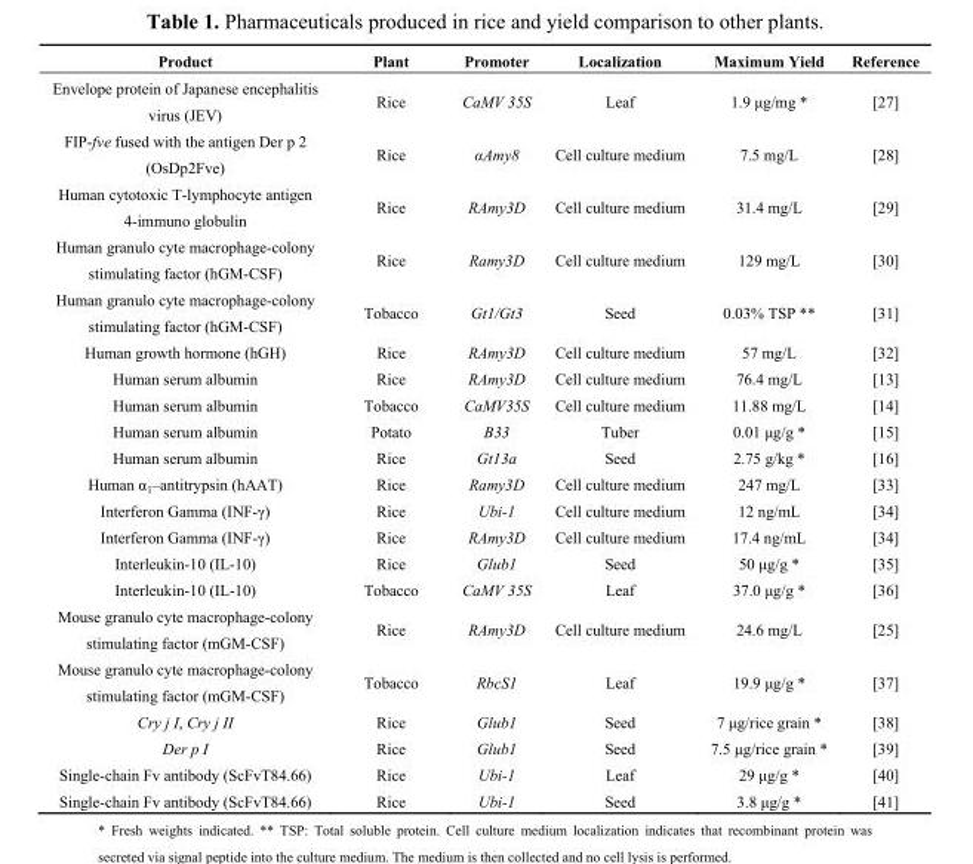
<table><thead><tr><td>Product</td><td>Plant</td><td>Promoter</td><td>Localization</td><td>Maximum Yield</td><td>Reference</td></tr></thead><tbody><tr><td>Envelope protein of Japanese encephalitis virus (JEV)</td><td>Rice</td><td>CaMV 35S</td><td>Leaf</td><td>1.9 μg/mg *</td><td>[27]</td></tr><tr><td>FIP-fve fused with the antigen Der p 2 (OsDp2Fve)</td><td>Rice</td><td>αAmy8</td><td>Cell culture medium</td><td>7.5 mg/L</td><td>[28]</td></tr><tr><td>Human cytotoxic T-lymphocyte antigen 4-immuno globulin</td><td>Rice</td><td>RAmy3D</td><td>Cell culture medium</td><td>31.4 mg/L</td><td>[29]</td></tr><tr><td>Human granulo cyte macrophage-colony stimulating factor (hGM-CSF)</td><td>Rice</td><td>Ramy3D</td><td>Cell culture medium</td><td>129 mg/L</td><td>[30]</td></tr><tr><td>Human granulo cyte macrophage-colony stimulating factor (hGM-CSF)</td><td>Tobacco</td><td>Gt1/Gt3</td><td>Seed</td><td>0.03% TSP **</td><td>[31]</td></tr><tr><td>Human growth hormone (hGH)</td><td>Rice</td><td>RAmy3D</td><td>Cell culture medium</td><td>57 mg/L</td><td>[32]</td></tr><tr><td>Human serum albumin</td><td>Rice</td><td>RAmy3D</td><td>Cell culture medium</td><td>76.4 mg/L</td><td>[13]</td></tr><tr><td>Human serum albumin</td><td>Tobacco</td><td>CaMV35S</td><td>Cell culture medium</td><td>11.88 mg/L</td><td>[14]</td></tr><tr><td>Human serum albumin</td><td>Potato</td><td>B33</td><td>Tuber</td><td>0.01 μg/g *</td><td>[15]</td></tr><tr><td>Human serum albumin</td><td>Rice</td><td>Gt13a</td><td>Seed</td><td>2.75 g/kg *</td><td>[16]</td></tr><tr><td>Human α<sub>1</sub>–antitrypsin (hAAT)</td><td>Rice</td><td>Ramy3D</td><td>Cell culture medium</td><td>247 mg/L</td><td>[33]</td></tr><tr><td>Interferon Gamma (INF-γ)</td><td>Rice</td><td>Ubi-1</td><td>Cell culture medium</td><td>12 ng/mL</td><td>[34]</td></tr><tr><td>Interferon Gamma (INF-γ)</td><td>Rice</td><td>RAmy3D</td><td>Cell culture medium</td><td>17.4 ng/mL</td><td>[34]</td></tr><tr><td>Interleukin-10 (IL-10)</td><td>Rice</td><td>Glub1</td><td>Seed</td><td>50 μg/g *</td><td>[35]</td></tr><tr><td>Interleukin-10 (IL-10)</td><td>Tobacco</td><td>CaMV 35S</td><td>Leaf</td><td>37.0 μg/g *</td><td>[36]</td></tr><tr><td>Mouse granulo cyte macrophage-colony stimulating factor (mGM-CSF)</td><td>Rice</td><td>RAmy3D</td><td>Cell culture medium</td><td>24.6 mg/L</td><td>[25]</td></tr><tr><td>Mouse granulo cyte macrophage-colony stimulating factor (mGM-CSF)</td><td>Tobacco</td><td>RbcS1</td><td>Leaf</td><td>19.9 μg/g *</td><td>[37]</td></tr><tr><td>Cry j I, Cry j II</td><td>Rice</td><td>Glub1</td><td>Seed</td><td>7 μg/rice grain *</td><td>[38]</td></tr><tr><td>Der p I</td><td>Rice</td><td>Glub1</td><td>Seed</td><td>7.5 μg/rice grain *</td><td>[39]</td></tr><tr><td>Single-chain Fv antibody (ScFvT84.66)</td><td>Rice</td><td>Ubi-1</td><td>Leaf</td><td>29 μg/g *</td><td>[40]</td></tr><tr><td>Single-chain Fv antibody (ScFvT84.66)</td><td>Rice</td><td>Ubi-1</td><td>Seed</td><td>3.8 μg/g *</td><td>[41]</td></tr></tbody></table>